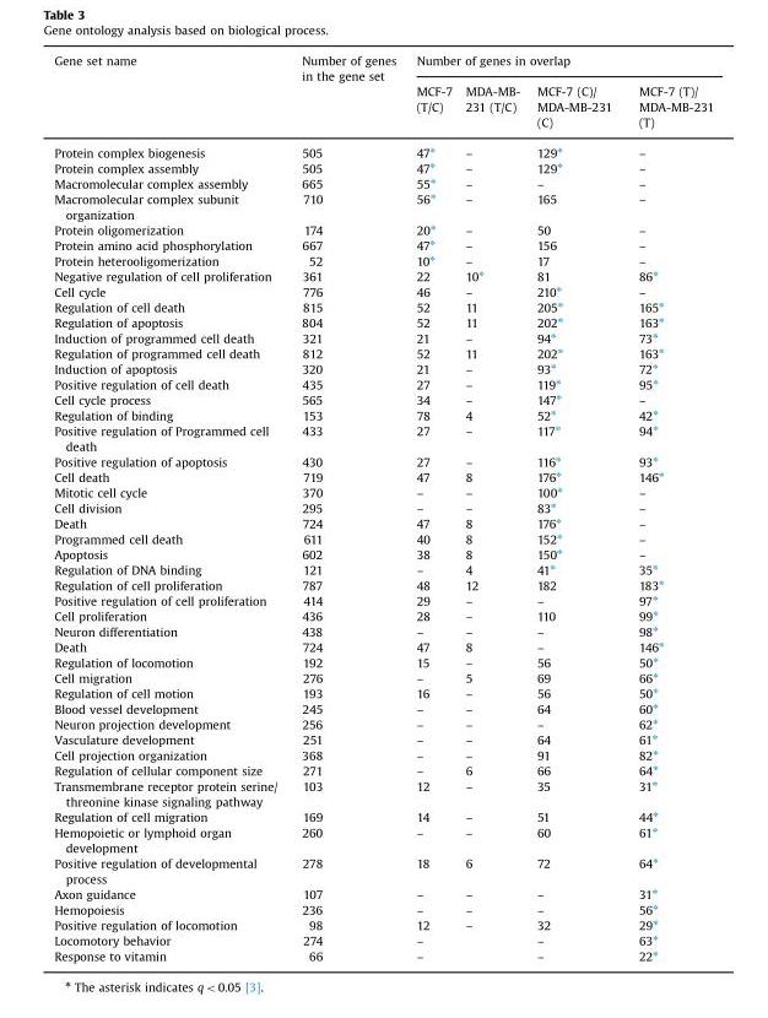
<table><thead><tr><td rowspan="2">Gene set name</td><td rowspan="2">Number of genes in the gene set</td><td colspan="4">Number of genes in overlap</td></tr><tr><td>MCF-7 (T/C)</td><td>MDA-MB- 231 (T/C)</td><td>MCF-7 (C)/ MDA-MB-231 (C)</td><td>MCF-7 (T)/ MDA-MB-231 (T)</td></tr></thead><tbody><tr><td>Protein complex biogenesis</td><td>505</td><td>47⁎</td><td>–</td><td>129⁎</td><td>–</td></tr><tr><td>Protein complex assembly</td><td>505</td><td>47⁎</td><td>–</td><td>129⁎</td><td>–</td></tr><tr><td>Macromolecular complex assembly</td><td>665</td><td>55⁎</td><td>–</td><td>–</td><td>–</td></tr><tr><td>Macromolecular complex subunit organization</td><td>710</td><td>56⁎</td><td>–</td><td>165</td><td>–</td></tr><tr><td>Protein oligomerization</td><td>174</td><td>20⁎</td><td>–</td><td>50</td><td>–</td></tr><tr><td>Protein amino acid phosphorylation</td><td>667</td><td>47⁎</td><td>–</td><td>156</td><td>–</td></tr><tr><td>Protein heterooligomerization</td><td>52</td><td>10⁎</td><td>–</td><td>17</td><td>–</td></tr><tr><td>Negative regulation of cell proliferation</td><td>361</td><td>22</td><td>10⁎</td><td>81</td><td>86⁎</td></tr><tr><td>Cell cycle</td><td>776</td><td>46</td><td>–</td><td>210⁎</td><td>–</td></tr><tr><td>Regulation of cell death</td><td>815</td><td>52</td><td>11</td><td>205⁎</td><td>165⁎</td></tr><tr><td>Regulation of apoptosis</td><td>804</td><td>52</td><td>11</td><td>202⁎</td><td>163⁎</td></tr><tr><td>Induction of programmed cell death</td><td>321</td><td>21</td><td>–</td><td>94⁎</td><td>73⁎</td></tr><tr><td>Regulation of programmed cell death</td><td>812</td><td>52</td><td>11</td><td>202⁎</td><td>163⁎</td></tr><tr><td>Induction of apoptosis</td><td>320</td><td>21</td><td>–</td><td>93⁎</td><td>72⁎</td></tr><tr><td>Positive regulation of cell death</td><td>435</td><td>27</td><td>–</td><td>119⁎</td><td>95⁎</td></tr><tr><td>Cell cycle process</td><td>565</td><td>34</td><td>–</td><td>147⁎</td><td>–</td></tr><tr><td>Regulation of binding</td><td>153</td><td>78</td><td>4</td><td>52⁎</td><td>42⁎</td></tr><tr><td>Positive regulation of Programmed cell death</td><td>433</td><td>27</td><td>–</td><td>117⁎</td><td>94⁎</td></tr><tr><td>Positive regulation of apoptosis</td><td>430</td><td>27</td><td>–</td><td>116⁎</td><td>93⁎</td></tr><tr><td>Cell death</td><td>719</td><td>47</td><td>8</td><td>176⁎</td><td>146⁎</td></tr><tr><td>Mitotic cell cycle</td><td>370</td><td>–</td><td>–</td><td>100⁎</td><td>–</td></tr><tr><td>Cell division</td><td>295</td><td>–</td><td>–</td><td>83⁎</td><td>–</td></tr><tr><td>Death</td><td>724</td><td>47</td><td>8</td><td>176⁎</td><td>–</td></tr><tr><td>Programmed cell death</td><td>611</td><td>40</td><td>8</td><td>152⁎</td><td>–</td></tr><tr><td>Apoptosis</td><td>602</td><td>38</td><td>8</td><td>150⁎</td><td>–</td></tr><tr><td>Regulation of DNA binding</td><td>121</td><td>–</td><td>4</td><td>41⁎</td><td>35⁎</td></tr><tr><td>Regulation of cell proliferation</td><td>787</td><td>48</td><td>12</td><td>182</td><td>183⁎</td></tr><tr><td>Positive regulation of cell proliferation</td><td>414</td><td>29</td><td>–</td><td>–</td><td>97⁎</td></tr><tr><td>Cell proliferation</td><td>436</td><td>28</td><td>–</td><td>110</td><td>99⁎</td></tr><tr><td>Neuron differentiation</td><td>438</td><td>–</td><td>–</td><td>–</td><td>98⁎</td></tr><tr><td>Death</td><td>724</td><td>47</td><td>8</td><td>–</td><td>146⁎</td></tr><tr><td>Regulation of locomotion</td><td>192</td><td>15</td><td>–</td><td>56</td><td>50⁎</td></tr><tr><td>Cell migration</td><td>276</td><td>–</td><td>5</td><td>69</td><td>66⁎</td></tr><tr><td>Regulation of cell motion</td><td>193</td><td>16</td><td>–</td><td>56</td><td>50⁎</td></tr><tr><td>Blood vessel development</td><td>245</td><td>–</td><td>–</td><td>64</td><td>60⁎</td></tr><tr><td>Neuron projection development</td><td>256</td><td>–</td><td>–</td><td>–</td><td>62⁎</td></tr><tr><td>Vasculature development</td><td>251</td><td>–</td><td>–</td><td>64</td><td>61⁎</td></tr><tr><td>Cell projection organization</td><td>368</td><td>–</td><td>–</td><td>91</td><td>82⁎</td></tr><tr><td>Regulation of cellular component size</td><td>271</td><td>–</td><td>6</td><td>66</td><td>64⁎</td></tr><tr><td>Transmembrane receptor protein serine/ threonine kinase signaling pathway</td><td>103</td><td>12</td><td>–</td><td>35</td><td>31⁎</td></tr><tr><td>Regulation of cell migration</td><td>169</td><td>14</td><td>–</td><td>51</td><td>44⁎</td></tr><tr><td>Hemopoietic or lymphoid organ development</td><td>260</td><td>–</td><td>–</td><td>60</td><td>61⁎</td></tr><tr><td>Positive regulation of developmental process</td><td>278</td><td>18</td><td>6</td><td>72</td><td>64⁎</td></tr><tr><td>Axon guidance</td><td>107</td><td>–</td><td>–</td><td>–</td><td>31⁎</td></tr><tr><td>Hemopoiesis</td><td>236</td><td>–</td><td>–</td><td>–</td><td>56⁎</td></tr><tr><td>Positive regulation of locomotion</td><td>98</td><td>12</td><td>–</td><td>32</td><td>29⁎</td></tr><tr><td>Locomotory behavior</td><td>274</td><td>–</td><td></td><td>–</td><td>63⁎</td></tr><tr><td>Response to vitamin</td><td>66</td><td>–</td><td></td><td>–</td><td>22⁎</td></tr></tbody></table>